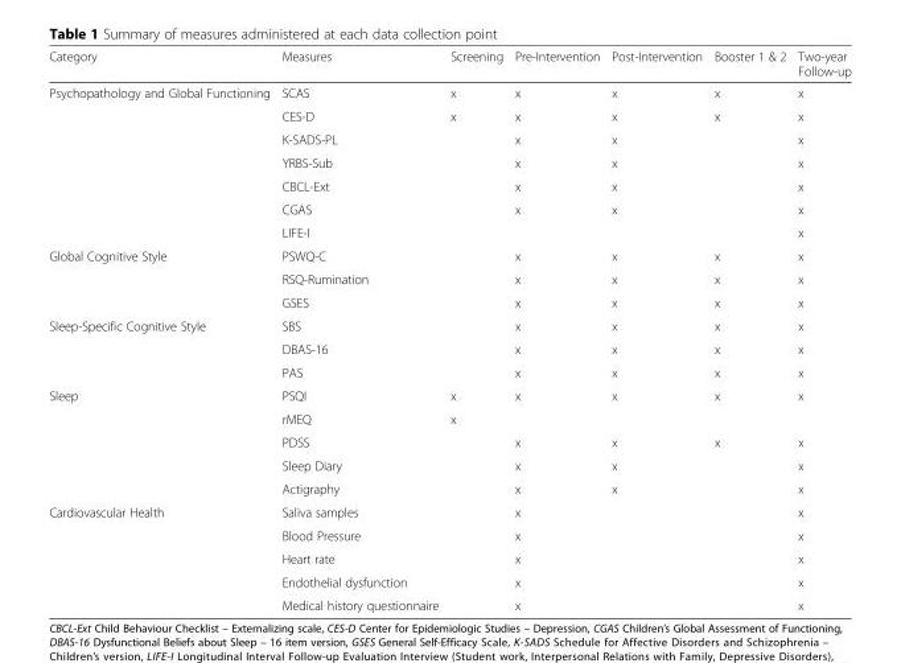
<table><thead><tr><td>Category</td><td>Measures</td><td>Screening</td><td>Pre-Intervention</td><td>Post-Intervention</td><td>Booster 1 &amp; 2</td><td>Two-year Follow-up</td></tr></thead><tbody><tr><td rowspan="7">Psychopathology and Global Functioning</td><td>SCAS</td><td>x</td><td>x</td><td>x</td><td>x</td><td>x</td></tr><tr><td>CES-D</td><td>x</td><td>x</td><td>x</td><td>x</td><td>x</td></tr><tr><td>K-SADS-PL</td><td></td><td>x</td><td>x</td><td></td><td>x</td></tr><tr><td>YRBS-Sub</td><td></td><td>x</td><td>x</td><td></td><td>x</td></tr><tr><td>CBCL-Ext</td><td></td><td>x</td><td>x</td><td></td><td>x</td></tr><tr><td>CGAS</td><td></td><td>x</td><td>x</td><td></td><td>x</td></tr><tr><td>LIFE-I</td><td></td><td></td><td></td><td></td><td>x</td></tr><tr><td rowspan="3">Global Cognitive Style</td><td>PSWQ-C</td><td></td><td>x</td><td>x</td><td>x</td><td>x</td></tr><tr><td>RSQ-Rumination</td><td></td><td>x</td><td>x</td><td>x</td><td>x</td></tr><tr><td>GSES</td><td></td><td>x</td><td>x</td><td>x</td><td>x</td></tr><tr><td rowspan="3">Sleep-Specific Cognitive Style</td><td>SBS</td><td></td><td>x</td><td>x</td><td>x</td><td>x</td></tr><tr><td>DBAS-16</td><td></td><td>x</td><td>x</td><td>x</td><td>x</td></tr><tr><td>PAS</td><td></td><td>x</td><td>x</td><td>x</td><td>x</td></tr><tr><td rowspan="5">Sleep</td><td>PSQI</td><td>x</td><td>x</td><td>x</td><td>x</td><td>x</td></tr><tr><td>rMEQ</td><td>x</td><td></td><td></td><td></td><td></td></tr><tr><td>PDSS</td><td></td><td>x</td><td>x</td><td>x</td><td>x</td></tr><tr><td>Sleep Diary</td><td></td><td>x</td><td>x</td><td></td><td>x</td></tr><tr><td>Actigraphy</td><td></td><td>x</td><td>x</td><td></td><td>x</td></tr><tr><td rowspan="5">Cardiovascular Health</td><td>Saliva samples</td><td></td><td>x</td><td></td><td></td><td>x</td></tr><tr><td>Blood Pressure</td><td></td><td>x</td><td></td><td></td><td>x</td></tr><tr><td>Heart rate</td><td></td><td>x</td><td></td><td></td><td>x</td></tr><tr><td>Endothelial dysfunction</td><td></td><td>x</td><td></td><td></td><td>x</td></tr><tr><td>Medical history questionnaire</td><td></td><td>x</td><td></td><td></td><td>x</td></tr></tbody></table>